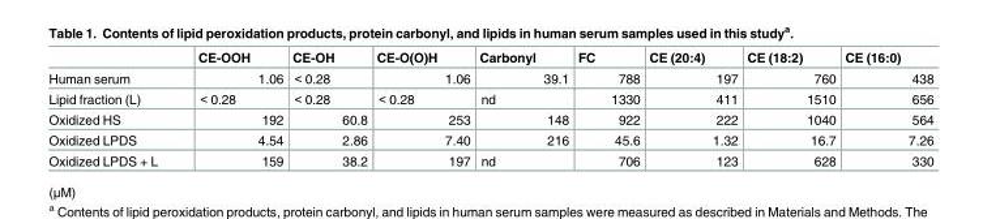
<table><thead><tr><td></td><td>CE-OOH</td><td>CE-OH</td><td>CE-O(O)H</td><td>Carbonyl</td><td>FC</td><td>CE (20:4)</td><td>CE (18:2)</td><td>CE (16:0)</td></tr></thead><tbody><tr><td>Human serum</td><td>1.06</td><td>&lt; 0.28</td><td>1.06</td><td>39.1</td><td>788</td><td>197</td><td>760</td><td>438</td></tr><tr><td>Lipid fraction (L)</td><td>&lt; 0.28</td><td>&lt; 0.28</td><td>&lt; 0.28</td><td>nd</td><td>1330</td><td>411</td><td>1510</td><td>656</td></tr><tr><td>Oxidized HS</td><td>192</td><td>60.8</td><td>253</td><td>148</td><td>922</td><td>222</td><td>1040</td><td>564</td></tr><tr><td>Oxidized LPDS</td><td>4.54</td><td>2.86</td><td>7.40</td><td>216</td><td>45.6</td><td>1.32</td><td>16.7</td><td>7.26</td></tr><tr><td>Oxidized LPDS + L</td><td>159</td><td>38.2</td><td>197</td><td>nd</td><td>706</td><td>123</td><td>628</td><td>330</td></tr></tbody></table>